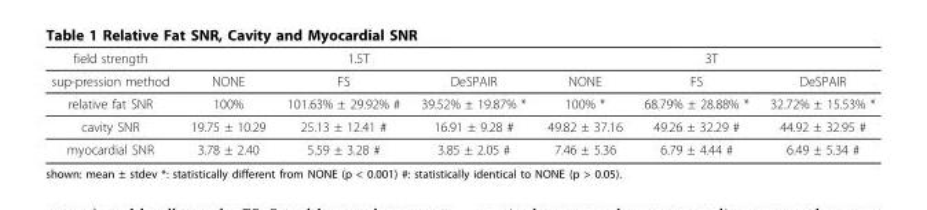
<table><thead><tr><td rowspan="2">field strength sup-pression method</td><td colspan="3">1.5T</td><td colspan="3">3T</td></tr><tr><td>NONE</td><td>FS</td><td>DeSPAIR</td><td>NONE</td><td>FS</td><td>DeSPAIR</td></tr></thead><tbody><tr><td>relative fat SNR</td><td>100%</td><td>101.63% ± 29.92% #</td><td>39.52% ± 19.87% *</td><td>100% *</td><td>68.79% ± 28.88% *</td><td>32.72% ± 15.53% *</td></tr><tr><td>cavity SNR</td><td>19.75 ± 10.29</td><td>25.13 ± 12.41 #</td><td>16.91 ± 9.28 #</td><td>49.82 ± 37.16</td><td>49.26 ± 32.29 #</td><td>44.92 ± 32.95 #</td></tr><tr><td>myocardial SNR</td><td>3.78 ± 2.40</td><td>5.59 ± 3.28 #</td><td>3.85 ± 2.05 #</td><td>7.46 ± 5.36</td><td>6.79 ± 4.44 #</td><td>6.49 ± 5.34 #</td></tr></tbody></table>